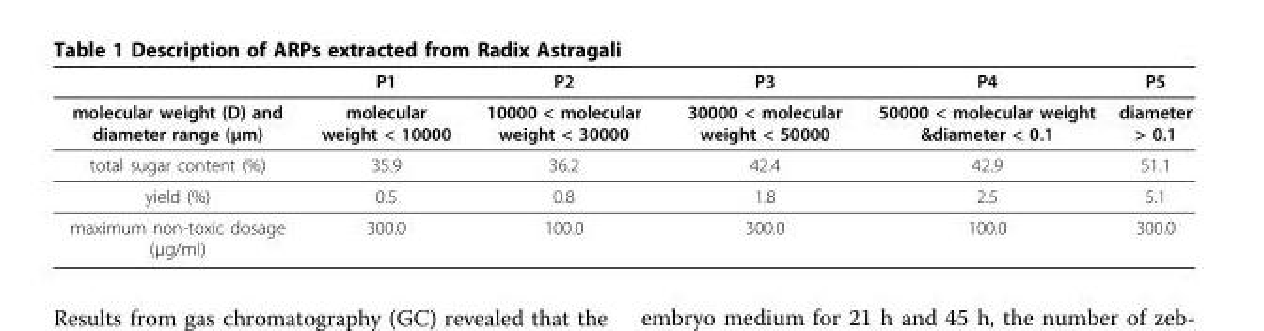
<table><thead><tr><td></td><td>P1</td><td>P2</td><td>P3</td><td>P4</td><td>P5</td></tr></thead><tbody><tr><td>molecular weight (D) and diameter range (μm)</td><td>molecular weight &lt; 10000</td><td>10000 &lt; molecular weight &lt; 30000</td><td>30000 &lt; molecular weight &lt; 50000</td><td>50000 &lt; molecular weight &amp;diameter &lt; 0.1</td><td>diameter &gt; 0.1</td></tr><tr><td>total sugar content (%)</td><td>35.9</td><td>36.2</td><td>42.4</td><td>42.9</td><td>51.1</td></tr><tr><td>yield (%)</td><td>0.5</td><td>0.8</td><td>1.8</td><td>2.5</td><td>5.1</td></tr><tr><td>maximum non-toxic dosage (μg/ml)</td><td>300.0</td><td>100.0</td><td>300.0</td><td>100.0</td><td>300.0</td></tr></tbody></table>